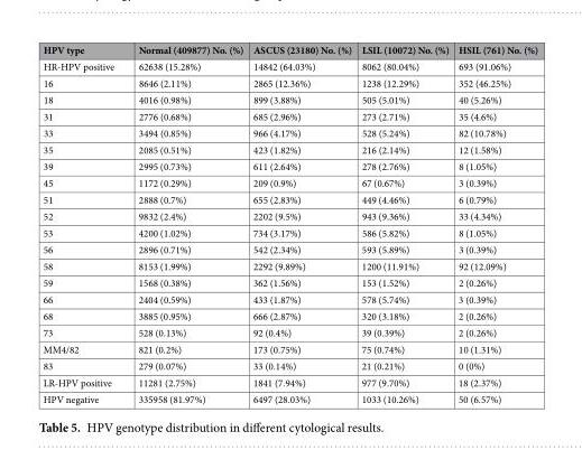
<table><thead><tr><td>HPV type</td><td>Normal (409877) No. (%)</td><td>ASCUS (23180) No. (%)</td><td>LSIL (10072) No. (%)</td><td>HSIL (761) No. (%)</td></tr></thead><tbody><tr><td>HR-HPV positive</td><td>62638 (15.28%)</td><td>14842 (64.03%)</td><td>8062 (80.04%)</td><td>693 (91.06%)</td></tr><tr><td>16</td><td>8646 (2.11%)</td><td>2865 (12.36%)</td><td>1238 (12.29%)</td><td>352 (46.25%)</td></tr><tr><td>18</td><td>4016 (0.98%)</td><td>899 (3.88%)</td><td>505 (5.01%)</td><td>40 (5.26%)</td></tr><tr><td>31</td><td>2776 (0.68%)</td><td>685 (2.96%)</td><td>273 (2.71%)</td><td>35 (4.6%)</td></tr><tr><td>33</td><td>3494 (0.85%)</td><td>966 (4.17%)</td><td>528 (5.24%)</td><td>82 (10.78%)</td></tr><tr><td>35</td><td>2085 (0.51%)</td><td>423 (1.82%)</td><td>216 (2.14%)</td><td>12 (1.58%)</td></tr><tr><td>39</td><td>2995 (0.73%)</td><td>611 (2.64%)</td><td>278 (2.76%)</td><td>8 (1.05%)</td></tr><tr><td>45</td><td>1172 (0.29%)</td><td>209 (0.9%)</td><td>67 (0.67%)</td><td>3 (0.39%)</td></tr><tr><td>51</td><td>2888 (0.7%)</td><td>655 (2.83%)</td><td>449 (4.46%)</td><td>6 (0.79%)</td></tr><tr><td>52</td><td>9832 (2.4%)</td><td>2202 (9.5%)</td><td>943 (9.36%)</td><td>33 (4.34%)</td></tr><tr><td>53</td><td>4200 (1.02%)</td><td>734 (3.17%)</td><td>586 (5.82%)</td><td>8 (1.05%)</td></tr><tr><td>56</td><td>2896 (0.71%)</td><td>542 (2.34%)</td><td>593 (5.89%)</td><td>3 (0.39%)</td></tr><tr><td>58</td><td>8153 (1.99%)</td><td>2292 (9.89%)</td><td>1200 (11.91%)</td><td>92 (12.09%)</td></tr><tr><td>59</td><td>1568 (0.38%)</td><td>362 (1.56%)</td><td>153 (1.52%)</td><td>2 (0.26%)</td></tr><tr><td>66</td><td>2404 (0.59%)</td><td>433 (1.87%)</td><td>578 (5.74%)</td><td>3 (0.39%)</td></tr><tr><td>68</td><td>3885 (0.95%)</td><td>666 (2.87%)</td><td>320 (3.18%)</td><td>2 (0.26%)</td></tr><tr><td>73</td><td>528 (0.13%)</td><td>92 (0.4%)</td><td>39 (0.39%)</td><td>2 (0.26%)</td></tr><tr><td>MM4/82</td><td>821 (0.2%)</td><td>173 (0.75%)</td><td>75 (0.74%)</td><td>10 (1.31%)</td></tr><tr><td>83</td><td>279 (0.07%)</td><td>33 (0.14%)</td><td>21 (0.21%)</td><td>0 (0%)</td></tr><tr><td>LR-HPV positive</td><td>11281 (2.75%)</td><td>1841 (7.94%)</td><td>977 (9.70%)</td><td>18 (2.37%)</td></tr><tr><td>HPV negative</td><td>335958 (81.97%)</td><td>6497 (28.03%)</td><td>1033 (10.26%)</td><td>50 (6.57%)</td></tr></tbody></table>